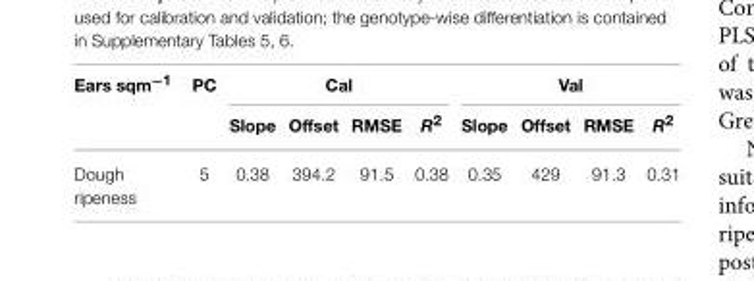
<table><thead><tr><td rowspan="2">Ears sqm<sup>−1</sup></td><td rowspan="2">PC</td><td colspan="4">Cal</td><td colspan="4">Val</td></tr><tr><td>Slope</td><td>Offset</td><td>RMSE</td><td>R<sup>2</sup></td><td>Slope</td><td>Offset</td><td>RMSE</td><td>R<sup>2</sup></td></tr></thead><tbody><tr><td>Dough ripeness</td><td>5</td><td>0.38</td><td>394.2</td><td>91.5</td><td>0.38</td><td>0.35</td><td>429</td><td>91.3</td><td>0.31</td></tr></tbody></table>